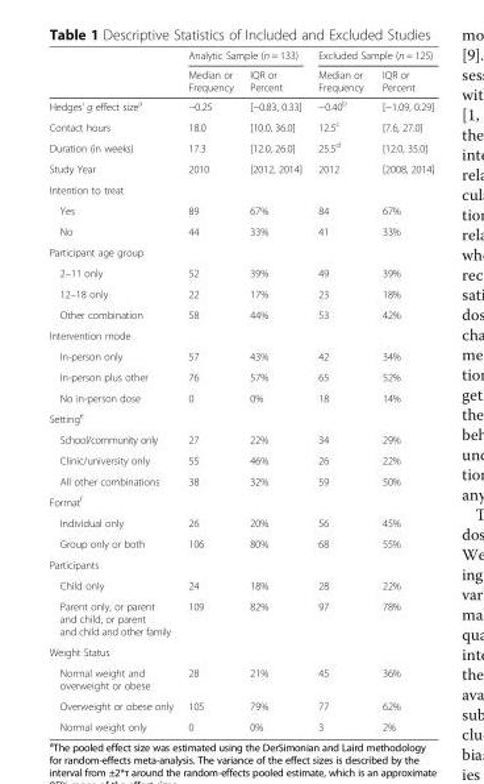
<table><thead><tr><td rowspan="2"></td><td colspan="2">Analytic Sample (n = 133)</td><td colspan="2">Excluded Sample (n = 125)</td></tr><tr><td>Median or Frequency</td><td>IQR or Percent</td><td>Median or Frequency</td><td>IQR or Percent</td></tr></thead><tbody><tr><td>Hedges’ g effect size<sup>a</sup></td><td>−0.25</td><td>[−0.83, 0.33]</td><td>−0.40<sup>b</sup></td><td>[−1.09, 0.29]</td></tr><tr><td>Contact hours</td><td>18.0</td><td>[10.0, 36.0]</td><td>12.5<sup>c</sup></td><td>[7.6, 27.0]</td></tr><tr><td>Duration (in weeks)</td><td>17.3</td><td>[12.0, 26.0]</td><td>25.5<sup>d</sup></td><td>[12.0, 35.0]</td></tr><tr><td>Study Year</td><td>2010</td><td>[2012, 2014]</td><td>2012</td><td>[2008, 2014]</td></tr><tr><td colspan="5">Intention to treat</td></tr><tr><td>Yes</td><td>89</td><td>67%</td><td>84</td><td>67%</td></tr><tr><td>No</td><td>44</td><td>33%</td><td>41</td><td>33%</td></tr><tr><td colspan="5">Participant age group</td></tr><tr><td>2–11 only</td><td>52</td><td>39%</td><td>49</td><td>39%</td></tr><tr><td>12–18 only</td><td>22</td><td>17%</td><td>23</td><td>18%</td></tr><tr><td>Other combination</td><td>58</td><td>44%</td><td>53</td><td>42%</td></tr><tr><td colspan="5">Intervention mode</td></tr><tr><td>In-person only</td><td>57</td><td>43%</td><td>42</td><td>34%</td></tr><tr><td>In-person plus other</td><td>76</td><td>57%</td><td>65</td><td>52%</td></tr><tr><td>No in-person dose</td><td>0</td><td>0%</td><td>18</td><td>14%</td></tr><tr><td colspan="5">Setting<sup>e</sup></td></tr><tr><td>School/community only</td><td>27</td><td>22%</td><td>34</td><td>29%</td></tr><tr><td>Clinic/university only</td><td>55</td><td>46%</td><td>26</td><td>22%</td></tr><tr><td>All other combinations</td><td>38</td><td>32%</td><td>59</td><td>50%</td></tr><tr><td colspan="5">Format<sup>f</sup></td></tr><tr><td>Individual only</td><td>26</td><td>20%</td><td>56</td><td>45%</td></tr><tr><td>Group only or both</td><td>106</td><td>80%</td><td>68</td><td>55%</td></tr><tr><td colspan="5">Participants</td></tr><tr><td>Child only</td><td>24</td><td>18%</td><td>28</td><td>22%</td></tr><tr><td>Parent only, or parent and child, or parent and child and other family</td><td>109</td><td>82%</td><td>97</td><td>78%</td></tr><tr><td colspan="5">Weight Status</td></tr><tr><td>Normal weight and overweight or obese</td><td>28</td><td>21%</td><td>45</td><td>36%</td></tr><tr><td>Overweight or obese only</td><td>105</td><td>79%</td><td>77</td><td>62%</td></tr><tr><td>Normal weight only</td><td>0</td><td>0%</td><td>3</td><td>2%</td></tr></tbody></table>